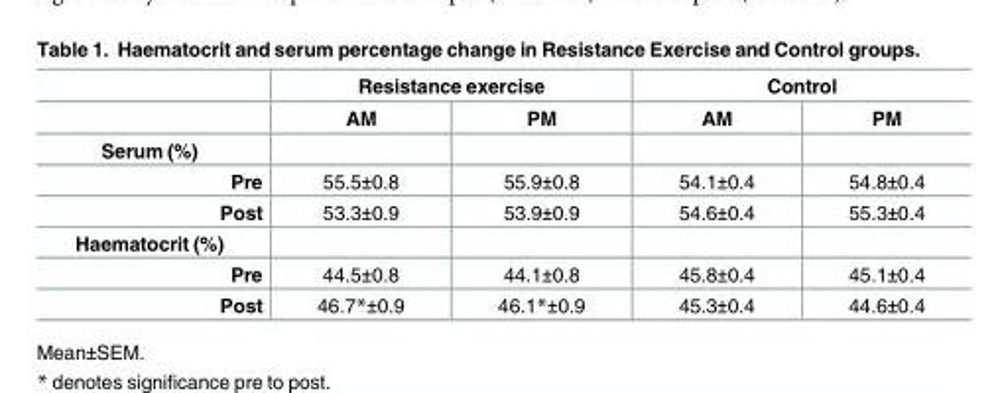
<table><thead><tr><td rowspan="2"></td><td colspan="2">Resistance exercise</td><td colspan="2">Control</td></tr><tr><td>AM</td><td>PM</td><td>AM</td><td>PM</td></tr></thead><tbody><tr><td colspan="5">Serum (%)</td></tr><tr><td>Pre</td><td>55.5±0.8</td><td>55.9±0.8</td><td>54.1±0.4</td><td>54.8±0.4</td></tr><tr><td>Post</td><td>53.3±0.9</td><td>53.9±0.9</td><td>54.6±0.4</td><td>55.3±0.4</td></tr><tr><td colspan="5">Haematocrit (%)</td></tr><tr><td>Pre</td><td>44.5±0.8</td><td>44.1±0.8</td><td>45.8±0.4</td><td>45.1±0.4</td></tr><tr><td>Post</td><td>46.7*±0.9</td><td>46.1*±0.9</td><td>45.3±0.4</td><td>44.6±0.4</td></tr></tbody></table>